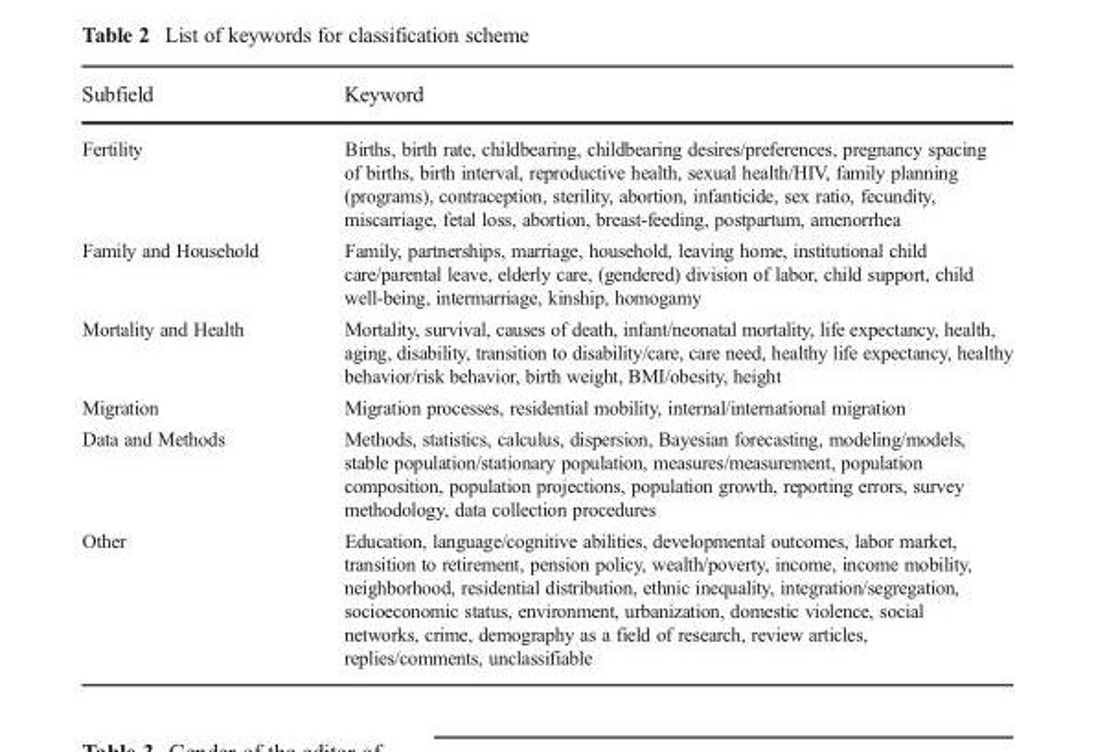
<table><thead><tr><td>Subfield</td><td>Keyword</td></tr></thead><tbody><tr><td>Fertility</td><td>Births, birth rate, childbearing, childbearing desires/preferences, pregnancy spacing of births, birth interval, reproductive health, sexual health/HIV, family planning (programs), contraception, sterility, abortion, infanticide, sex ratio, fecundity, miscarriage, fetal loss, abortion, breast-feeding, postpartum, amenorrhea</td></tr><tr><td>Family and Household</td><td>Family, partnerships, marriage, household, leaving home, institutional child care/parental leave, elderly care, (gendered) division of labor, child support, child well-being, intermarriage, kinship, homogamy</td></tr><tr><td>Mortality and Health</td><td>Mortality, survival, causes of death, infant/neonatal mortality, life expectancy, health, aging, disability, transition to disability/care, care need, healthy life expectancy, healthy behavior/risk behavior, birth weight, BMI/obesity, height</td></tr><tr><td>Migration</td><td>Migration processes, residential mobility, internal/international migration</td></tr><tr><td>Data and Methods</td><td>Methods, statistics, calculus, dispersion, Bayesian forecasting, modeling/models, stable population/stationary population, measures/measurement, population composition, population projections, population growth, reporting errors, survey methodology, data collection procedures</td></tr><tr><td>Other</td><td>Education, language/cognitive abilities, developmental outcomes, labor market, transition to retirement, pension policy, wealth/poverty, income, income mobility, neighborhood, residential distribution, ethnic inequality, integration/segregation, socioeconomic status, environment, urbanization, domestic violence, social networks, crime, demography as a field of research, review articles, replies/comments, unclassifiable</td></tr></tbody></table>